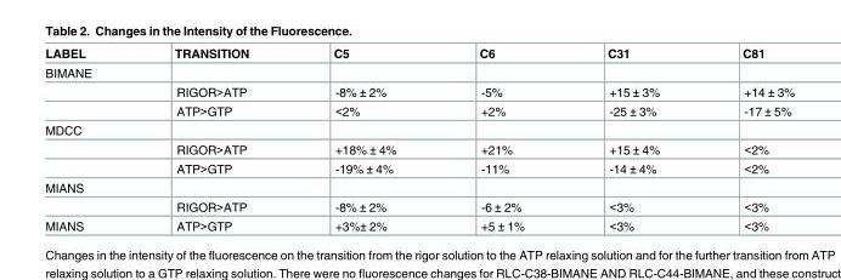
<table><thead><tr><td>LABEL</td><td>TRANSITION</td><td>C5</td><td>C6</td><td>C31</td><td>C81</td></tr></thead><tbody><tr><td colspan="6">BIMANE</td></tr><tr><td></td><td>RIGOR&gt;ATP</td><td>-8% ± 2%</td><td>-5%</td><td>+15 ± 3%</td><td>+14 ± 3%</td></tr><tr><td></td><td>ATP&gt;GTP</td><td>&lt;2%</td><td>+2%</td><td>-25 ± 3%</td><td>-17 ± 5%</td></tr><tr><td colspan="6">MDCC</td></tr><tr><td></td><td>RIGOR&gt;ATP</td><td>+18% ± 4%</td><td>+21%</td><td>+15 ± 4%</td><td>&lt;2%</td></tr><tr><td></td><td>ATP&gt;GTP</td><td>-19% ± 4%</td><td>-11%</td><td>-14 ± 4%</td><td>&lt;2%</td></tr><tr><td colspan="6">MIANS</td></tr><tr><td></td><td>RIGOR&gt;ATP</td><td>-8% ± 2%</td><td>-6 ± 2%</td><td>&lt;3%</td><td>&lt;3%</td></tr><tr><td>MIANS</td><td>ATP&gt;GTP</td><td>+3%± 2%</td><td>+5 ± 1%</td><td>&lt;3%</td><td>&lt;3%</td></tr></tbody></table>